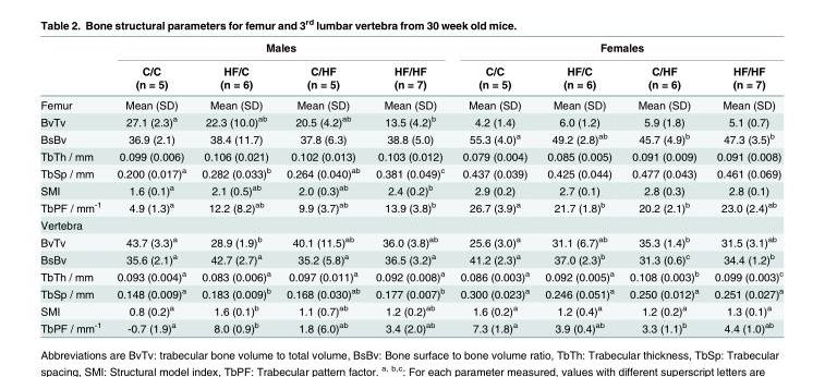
<table><thead><tr><td rowspan="3"></td><td colspan="4">Males</td><td colspan="4">Females</td></tr><tr><td rowspan="2">C/C (n = 5)</td><td rowspan="2">HF/C (n = 6)</td><td rowspan="2">C/HF (n = 5)</td><td rowspan="2">HF/HF (n = 7)</td><td rowspan="2">C/C (n = 5)</td><td rowspan="2">HF/C (n = 6)</td><td rowspan="2">C/HF (n = 6)</td><td rowspan="2">HF/HF (n = 7)</td></tr><tr></tr></thead><tbody><tr><td>Femur</td><td>Mean (SD)</td><td>Mean (SD)</td><td>Mean (SD)</td><td>Mean (SD)</td><td>Mean (SD)</td><td>Mean (SD)</td><td>Mean (SD)</td><td>Mean (SD)</td></tr><tr><td>BvTv</td><td>27.1 (2.3)<sup>a</sup></td><td>22.3 (10.0)<sup>ab</sup></td><td>20.5 (4.2)<sup>ab</sup></td><td>13.5 (4.2)<sup>b</sup></td><td>4.2 (1.4)</td><td>6.0 (1.2)</td><td>5.9 (1.8)</td><td>5.1 (0.7)</td></tr><tr><td>BsBv</td><td>36.9 (2.1)</td><td>38.4 (11.7)</td><td>37.8 (6.3)</td><td>38.8 (5.0)</td><td>55.3 (4.0)<sup>a</sup></td><td>49.2 (2.8)<sup>ab</sup></td><td>45.7 (4.9)<sup>b</sup></td><td>47.3 (3.5)<sup>b</sup></td></tr><tr><td>TbTh / mm</td><td>0.099 (0.006)</td><td>0.106 (0.021)</td><td>0.102 (0.013)</td><td>0.103 (0.012)</td><td>0.079 (0.004)</td><td>0.085 (0.005)</td><td>0.091 (0.009)</td><td>0.091 (0.008)</td></tr><tr><td>TbSp / mm</td><td>0.200 (0.017)<sup>a</sup></td><td>0.282 (0.033)<sup>b</sup></td><td>0.264 (0.040)<sup>ab</sup></td><td>0.381 (0.049)<sup>c</sup></td><td>0.437 (0.039)</td><td>0.425 (0.044)</td><td>0.477 (0.043)</td><td>0.461 (0.069)</td></tr><tr><td>SMI</td><td>1.6 (0.1)<sup>a</sup></td><td>2.1 (0.5)<sup>ab</sup></td><td>2.0 (0.3)<sup>ab</sup></td><td>2.4 (0.2)<sup>b</sup></td><td>2.9 (0.2)</td><td>2.7 (0.1)</td><td>2.8 (0.3)</td><td>2.8 (0.1)</td></tr><tr><td>TbPF / mm<sup>-1</sup></td><td>4.9 (1.3)<sup>a</sup></td><td>12.2 (8.2)<sup>ab</sup></td><td>9.9 (3.7)<sup>ab</sup></td><td>13.9 (3.8)<sup>b</sup></td><td>26.7 (3.9)<sup>a</sup></td><td>21.7 (1.8)<sup>b</sup></td><td>20.2 (2.1)<sup>b</sup></td><td>23.0 (2.4)<sup>ab</sup></td></tr><tr><td colspan="9">Vertebra</td></tr><tr><td>BvTv</td><td>43.7 (3.3)<sup>a</sup></td><td>28.9 (1.9)<sup>b</sup></td><td>40.1 (11.5)<sup>ab</sup></td><td>36.0 (3.8)<sup>ab</sup></td><td>25.6 (3.0)<sup>a</sup></td><td>31.1 (6.7)<sup>ab</sup></td><td>35.3 (1.4)<sup>b</sup></td><td>31.5 (3.1)<sup>ab</sup></td></tr><tr><td>BsBv</td><td>35.6 (2.1)<sup>a</sup></td><td>42.7 (2.7)<sup>a</sup></td><td>35.2 (5.8)<sup>a</sup></td><td>36.5 (3.2)<sup>a</sup></td><td>41.2 (2.3)<sup>a</sup></td><td>37.0 (2.3)<sup>b</sup></td><td>31.3 (0.6)<sup>c</sup></td><td>34.4 (1.2)<sup>b</sup></td></tr><tr><td>TbTh / mm</td><td>0.093 (0.004)<sup>a</sup></td><td>0.083 (0.006)<sup>a</sup></td><td>0.097 (0.011)<sup>a</sup></td><td>0.092 (0.008)<sup>a</sup></td><td>0.086 (0.003)<sup>a</sup></td><td>0.092 (0.005)<sup>a</sup></td><td>0.108 (0.003)<sup>b</sup></td><td>0.099 (0.003)<sup>c</sup></td></tr><tr><td>TbSp / mm</td><td>0.148 (0.009)<sup>a</sup></td><td>0.183 (0.009)<sup>b</sup></td><td>0.168 (0.030)<sup>ab</sup></td><td>0.177 (0.007)<sup>b</sup></td><td>0.300 (0.023)<sup>a</sup></td><td>0.246 (0.051)<sup>a</sup></td><td>0.250 (0.012)<sup>a</sup></td><td>0.251 (0.027)<sup>a</sup></td></tr><tr><td>SMI</td><td>0.8 (0.2)<sup>a</sup></td><td>1.6 (0.1)<sup>b</sup></td><td>1.1 (0.7)<sup>ab</sup></td><td>1.2 (0.2)<sup>ab</sup></td><td>1.6 (0.2)<sup>a</sup></td><td>1.2 (0.4)<sup>a</sup></td><td>1.2 (0.2)<sup>a</sup></td><td>1.3 (0.1)<sup>a</sup></td></tr><tr><td>TbPF / mm<sup>-1</sup></td><td>-0.7 (1.9)<sup>a</sup></td><td>8.0 (0.9)<sup>b</sup></td><td>1.8 (6.0)<sup>ab</sup></td><td>3.4 (2.0)<sup>ab</sup></td><td>7.3 (1.8)<sup>a</sup></td><td>3.9 (0.4)<sup>ab</sup></td><td>3.3 (1.1)<sup>b</sup></td><td>4.4 (1.0)<sup>ab</sup></td></tr></tbody></table>